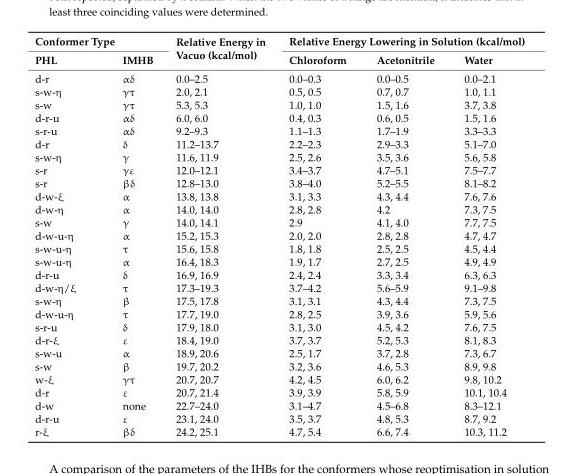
<table><thead><tr><td colspan="2">Conformer Type</td><td rowspan="2">Relative Energy in Vacuo (kcal/mol)</td><td colspan="3">Relative Energy Lowering in Solution (kcal/mol)</td></tr><tr><td>PHL</td><td>IMHB</td><td>Chloroform</td><td>Acetonitrile</td><td>Water</td></tr></thead><tbody><tr><td>d-r</td><td>αδ</td><td>0.0–2.5</td><td>0.0–0.3</td><td>0.0–0.5</td><td>0.0–2.1</td></tr><tr><td>s-w-η</td><td>γτ</td><td>2.0, 2.1</td><td>0.5, 0.5</td><td>0.7, 0.7</td><td>1.0, 1.1</td></tr><tr><td>s-w</td><td>γτ</td><td>5.3, 5.3</td><td>1.0, 1.0</td><td>1.5, 1.6</td><td>3.7, 3.8</td></tr><tr><td>d-r-u</td><td>αδ</td><td>6.0, 6.0</td><td>0.4, 0.3</td><td>0.6, 0.5</td><td>1.5, 1.6</td></tr><tr><td>s-r-u</td><td>αδ</td><td>9.2–9.3</td><td>1.1–1.3</td><td>1.7–1.9</td><td>3.3–3.3</td></tr><tr><td>d-r</td><td>δ</td><td>11.2–13.7</td><td>2.2–2.3</td><td>2.9–3.3</td><td>5.1–7.0</td></tr><tr><td>s-w-η</td><td>γ</td><td>11.6, 11.9</td><td>2.5, 2.6</td><td>3.5, 3.6</td><td>5.6, 5.8</td></tr><tr><td>s-r</td><td>γε</td><td>12.0–12.1</td><td>3.4–3.7</td><td>4.7–5.1</td><td>7.5–7.7</td></tr><tr><td>s-r</td><td>βδ</td><td>12.8–13.0</td><td>3.8–4.0</td><td>5.2–5.5</td><td>8.1–8.2</td></tr><tr><td>d-w-ξ</td><td>α</td><td>13.8, 13.8</td><td>3.1, 3.3</td><td>4.3, 4.4</td><td>7.6, 7.6</td></tr><tr><td>d-w-η</td><td>α</td><td>14.0, 14.0</td><td>2.8, 2.8</td><td>4.2</td><td>7.3, 7.5</td></tr><tr><td>s-w</td><td>γ</td><td>14.0, 14.1</td><td>2.9</td><td>4.1, 4.0</td><td>7.7, 7.5</td></tr><tr><td>d-w-u-η</td><td>α</td><td>15.2, 15.3</td><td>2.0, 2.0</td><td>2.8, 2.8</td><td>4.7, 4.7</td></tr><tr><td>s-w-u-η</td><td>τ</td><td>15.6, 15.8</td><td>1.8, 1.8</td><td>2.5, 2.5</td><td>4.5, 4.4</td></tr><tr><td>s-w-u-η</td><td>α</td><td>16.4, 18.3</td><td>1.9, 1.7</td><td>2.7, 2.5</td><td>4.9, 4.9</td></tr><tr><td>d-r-u</td><td>δ</td><td>16.9, 16.9</td><td>2.4, 2.4</td><td>3.3, 3.4</td><td>6.3, 6.3</td></tr><tr><td>d-w-η/ξ</td><td>τ</td><td>17.3–19.3</td><td>3.7–4.2</td><td>5.6–5.9</td><td>9.1–9.8</td></tr><tr><td>s-w-η</td><td>β</td><td>17.5, 17.8</td><td>3.1, 3.1</td><td>4.3, 4.4</td><td>7.3, 7.5</td></tr><tr><td>d-w-u-η</td><td>τ</td><td>17.7, 19.0</td><td>2.8, 2.5</td><td>3.9, 3.6</td><td>5.9, 5.6</td></tr><tr><td>s-r-u</td><td>δ</td><td>17.9, 18.0</td><td>3.1, 3.0</td><td>4.5, 4.2</td><td>7.6, 7.5</td></tr><tr><td>d-r-ξ</td><td>ε</td><td>18.4, 19.0</td><td>3.7, 3.7</td><td>5.2, 5.3</td><td>8.1, 8.3</td></tr><tr><td>s-w-u</td><td>α</td><td>18.9, 20.6</td><td>2.5, 1.7</td><td>3.7, 2.8</td><td>7.3, 6.7</td></tr><tr><td>s-w</td><td>β</td><td>19.7, 20.2</td><td>3.2, 3.6</td><td>4.6, 5.3</td><td>8.9, 9.8</td></tr><tr><td>w-ξ</td><td>γτ</td><td>20.7, 20.7</td><td>4.2, 4.5</td><td>6.0, 6.2</td><td>9.8, 10.2</td></tr><tr><td>d-r</td><td>ε</td><td>20.7, 21.4</td><td>3.9, 3.9</td><td>5.8, 5.9</td><td>10.1, 10.4</td></tr><tr><td>d-w</td><td>none</td><td>22.7–24.0</td><td>3.1–4.7</td><td>4.5–6.8</td><td>8.3–12.1</td></tr><tr><td>d-r-u</td><td>ε</td><td>23.1, 24.0</td><td>3.5, 3.7</td><td>4.8, 5.3</td><td>8.7, 9.2</td></tr><tr><td>r-ξ</td><td>βδ</td><td>24.2, 25.1</td><td>4.7, 5.4</td><td>6.6, 7.4</td><td>10.3, 11.2</td></tr></tbody></table>